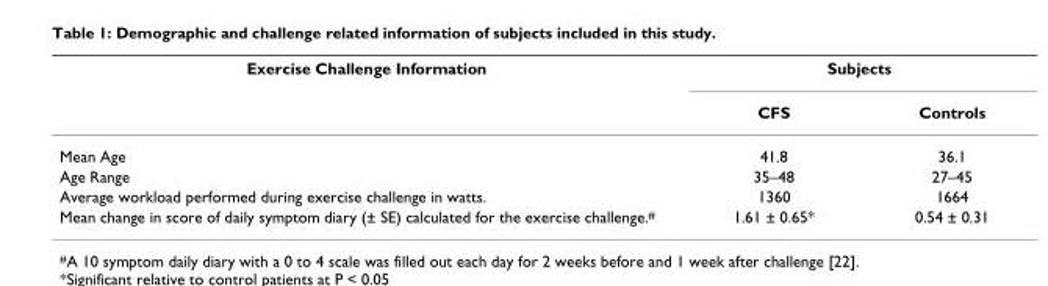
<table><thead><tr><td rowspan="2">Exercise Challenge Information</td><td colspan="2">Subjects</td></tr><tr><td>CFS</td><td>Controls</td></tr></thead><tbody><tr><td>Mean Age</td><td>41.8</td><td>36.1</td></tr><tr><td>Age Range</td><td>35–48</td><td>27–45</td></tr><tr><td>Average workload performed during exercise challenge in watts.</td><td>1360</td><td>1664</td></tr><tr><td>Mean change in score of daily symptom diary (± SE) calculated for the exercise challenge.#</td><td>1.61 ± 0.65*</td><td>0.54 ± 0.31</td></tr></tbody></table>